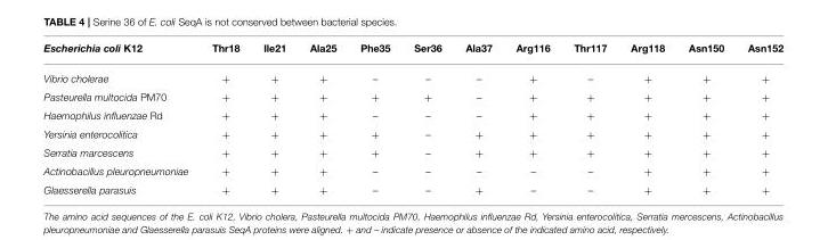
<table><thead><tr><td>Escherichia coli K12</td><td>Thr18</td><td>Ile21</td><td>Ala25</td><td>Phe35</td><td>Ser36</td><td>Ala37</td><td>Arg116</td><td>Thr117</td><td>Arg118</td><td>Asn150</td><td>Asn152</td></tr></thead><tbody><tr><td>Vibrio cholerae</td><td>+</td><td>+</td><td>+</td><td>–</td><td>–</td><td>–</td><td>+</td><td>–</td><td>+</td><td>+</td><td>+</td></tr><tr><td>Pasteurella multocida PM70</td><td>+</td><td>+</td><td>+</td><td>+</td><td>+</td><td>–</td><td>+</td><td>+</td><td>+</td><td>+</td><td>+</td></tr><tr><td>Haemophilus influenzae Rd</td><td>+</td><td>+</td><td>+</td><td>–</td><td>–</td><td>–</td><td>+</td><td>+</td><td>+</td><td>+</td><td>+</td></tr><tr><td>Yersinia enterocolitica</td><td>+</td><td>+</td><td>+</td><td>+</td><td>–</td><td>+</td><td>+</td><td>+</td><td>+</td><td>+</td><td>+</td></tr><tr><td>Serratia marcescens</td><td>+</td><td>+</td><td>+</td><td>+</td><td>–</td><td>+</td><td>+</td><td>+</td><td>+</td><td>+</td><td>+</td></tr><tr><td>Actinobacillus pleuropneumoniae</td><td>+</td><td>+</td><td>+</td><td>–</td><td>–</td><td>–</td><td>–</td><td>–</td><td>+</td><td>+</td><td>+</td></tr><tr><td>Glaesserella parasuis</td><td>+</td><td>+</td><td>+</td><td>–</td><td>–</td><td>+</td><td>–</td><td>–</td><td>+</td><td>+</td><td>+</td></tr></tbody></table>